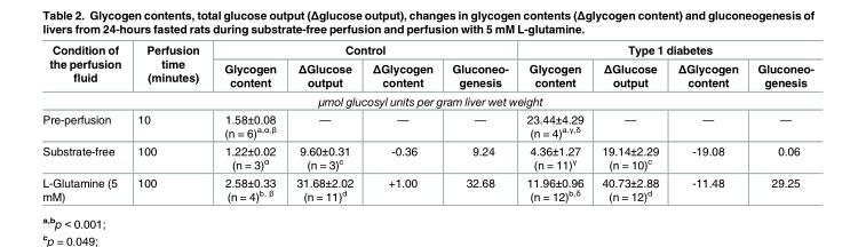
<table><thead><tr><td rowspan="2">Condition of the perfusion fluid</td><td rowspan="2">Perfusion time (minutes)</td><td colspan="4">Control</td><td colspan="4">Type 1 diabetes</td></tr><tr><td>Glycogen content</td><td>ΔGlucose output</td><td>ΔGlycogen content</td><td>Gluconeo- genesis</td><td>Glycogen content</td><td>ΔGlucose output</td><td>ΔGlycogen content</td><td>Gluconeo- genesis</td></tr></thead><tbody><tr><td colspan="10">μmol glucosyl units per gram liver wet weight</td></tr><tr><td>Pre-perfusion</td><td>10</td><td>1.58±0.08 (n = 6)<sup>a,α,β</sup></td><td>—</td><td>—</td><td>—</td><td>23.44±4.29 (n = 4)<sup>a,γ,δ</sup></td><td>—</td><td>—</td><td>—</td></tr><tr><td>Substrate-free</td><td>100</td><td>1.22±0.02 (n = 3)<sup>α</sup></td><td>9.60±0.31 (n = 3)<sup>c</sup></td><td>-0.36</td><td>9.24</td><td>4.36±1.27 (n = 11)<sup>γ</sup></td><td>19.14±2.29 (n = 10)<sup>c</sup></td><td>-19.08</td><td>0.06</td></tr><tr><td>L-Glutamine (5 mM)</td><td>100</td><td>2.58±0.33 (n = 4)<sup>b, β</sup></td><td>31.68±2.02 (n = 11)<sup>d</sup></td><td>+1.00</td><td>32.68</td><td>11.96±0.96 (n = 12)<sup>b,δ</sup></td><td>40.73±2.88 (n = 12)<sup>d</sup></td><td>-11.48</td><td>29.25</td></tr></tbody></table>